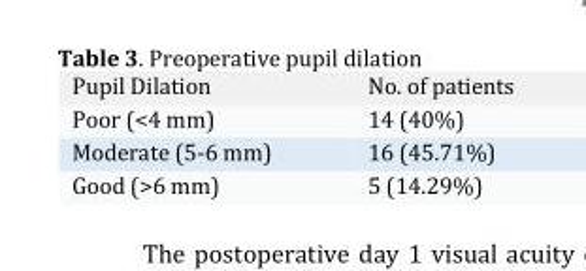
<table><tbody><tr><td>Pupil Dilation</td><td>No. of patients</td></tr><tr><td>Poor (&lt;4 mm)</td><td>14 (40%)</td></tr><tr><td>Moderate (5-6 mm)</td><td>16 (45.71%)</td></tr><tr><td>Good (&gt;6 mm)</td><td>5 (14.29%)</td></tr></tbody></table>